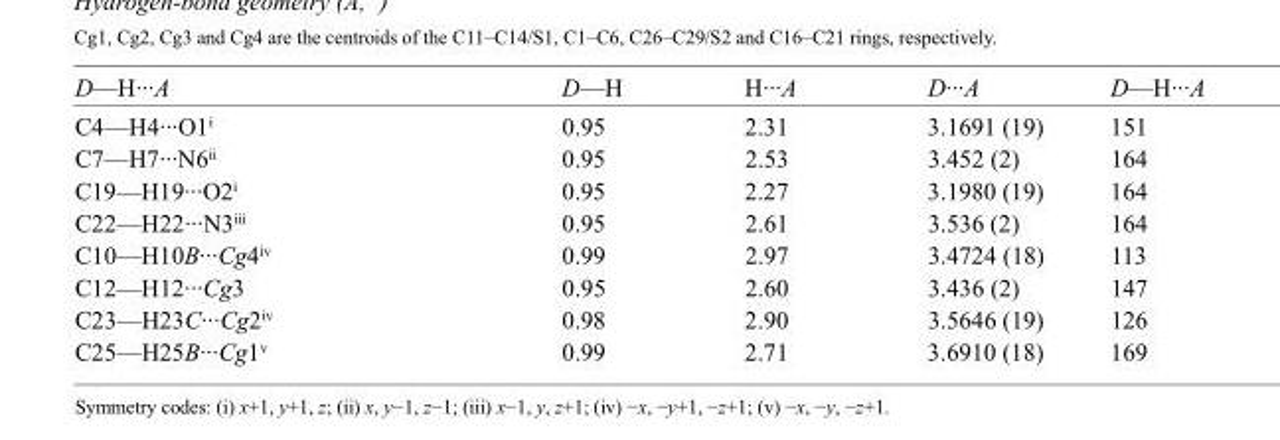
<table><tbody><tr><td>D—H···A</td><td>D—H</td><td>H···A</td><td>D···A</td><td>D—H···A</td></tr><tr><td>C4—H4···O1<sup>i</sup></td><td>0.95</td><td>2.31</td><td>3.1691 (19)</td><td>151</td></tr><tr><td>C7—H7···N6<sup>ii</sup></td><td>0.95</td><td>2.53</td><td>3.452 (2)</td><td>164</td></tr><tr><td>C19—H19···O2<sup>i</sup></td><td>0.95</td><td>2.27</td><td>3.1980 (19)</td><td>164</td></tr><tr><td>C22—H22···N3<sup>iii</sup></td><td>0.95</td><td>2.61</td><td>3.536 (2)</td><td>164</td></tr><tr><td>C10—H10B···Cg4<sup>iv</sup></td><td>0.99</td><td>2.97</td><td>3.4724 (18)</td><td>113</td></tr><tr><td>C12—H12···Cg3</td><td>0.95</td><td>2.60</td><td>3.436 (2)</td><td>147</td></tr><tr><td>C23—H23C···Cg2<sup>iv</sup></td><td>0.98</td><td>2.90</td><td>3.5646 (19)</td><td>126</td></tr><tr><td>C25—H25B···Cg1<sup>v</sup></td><td>0.99</td><td>2.71</td><td>3.6910 (18)</td><td>169</td></tr></tbody></table>